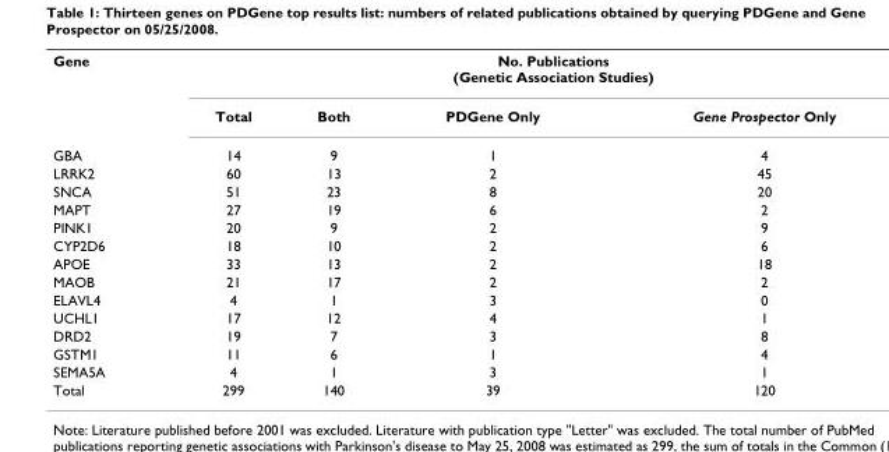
<table><tbody><tr><td rowspan="2">Gene</td><td colspan="4">No. Publications (Genetic Association Studies)</td></tr><tr><td>Total</td><td>Both</td><td>PDGene Only</td><td>Gene Prospector Only</td></tr><tr><td>GBA</td><td>14</td><td>9</td><td>1</td><td>4</td></tr><tr><td>LRRK2</td><td>60</td><td>13</td><td>2</td><td>45</td></tr><tr><td>SNCA</td><td>51</td><td>23</td><td>8</td><td>20</td></tr><tr><td>MAPT</td><td>27</td><td>19</td><td>6</td><td>2</td></tr><tr><td>PINK1</td><td>20</td><td>9</td><td>2</td><td>9</td></tr><tr><td>CYP2D6</td><td>18</td><td>10</td><td>2</td><td>6</td></tr><tr><td>APOE</td><td>33</td><td>13</td><td>2</td><td>18</td></tr><tr><td>MAOB</td><td>21</td><td>17</td><td>2</td><td>2</td></tr><tr><td>ELAVL4</td><td>4</td><td>1</td><td>3</td><td>0</td></tr><tr><td>UCHL1</td><td>17</td><td>12</td><td>4</td><td>1</td></tr><tr><td>DRD2</td><td>19</td><td>7</td><td>3</td><td>8</td></tr><tr><td>GSTM1</td><td>11</td><td>6</td><td>1</td><td>4</td></tr><tr><td>SEMA5A</td><td>4</td><td>1</td><td>3</td><td>1</td></tr><tr><td>Total</td><td>299</td><td>140</td><td>39</td><td>120</td></tr></tbody></table>